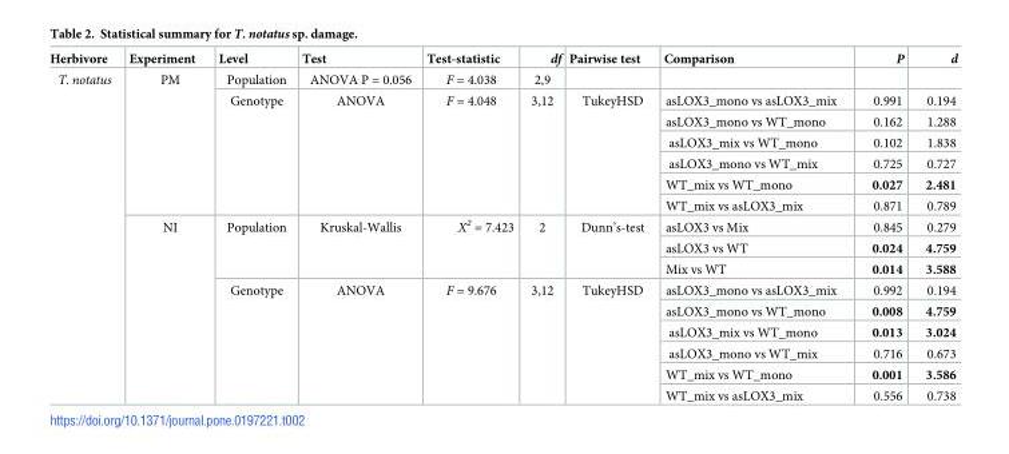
<table><thead><tr><td>Herbivore</td><td>Experiment</td><td>Level</td><td>Test</td><td>Test-statistic</td><td>df</td><td>Pairwise test</td><td>Comparison</td><td>P</td><td>d</td></tr></thead><tbody><tr><td rowspan="16">T. notatus</td><td rowspan="7">PM</td><td>Population</td><td>ANOVA P = 0.056</td><td>F = 4.038</td><td>2,9</td><td></td><td></td><td></td><td></td></tr><tr><td rowspan="6">Genotype</td><td rowspan="6">ANOVA</td><td rowspan="6">F = 4.048</td><td rowspan="6">3,12</td><td rowspan="6">TukeyHSD</td><td>asLOX3_mono vs asLOX3_mix</td><td>0.991</td><td>0.194</td></tr><tr><td>asLOX3_mono vs WT_mono</td><td>0.162</td><td>1.288</td></tr><tr><td>asLOX3_mix vs WT_mono</td><td>0.102</td><td>1.838</td></tr><tr><td>asLOX3_mono vs WT_mix</td><td>0.725</td><td>0.727</td></tr><tr><td>WT_mix vs WT_mono</td><td>0.027</td><td>2.481</td></tr><tr><td>WT_mix vs asLOX3_mix</td><td>0.871</td><td>0.789</td></tr><tr><td rowspan="9">NI</td><td rowspan="3">Population</td><td rowspan="3">Kruskal-Wallis</td><td rowspan="3">X<sup>2</sup> = 7.423</td><td rowspan="3">2</td><td rowspan="3">Dunn’s-test</td><td>asLOX3 vs Mix</td><td>0.845</td><td>0.279</td></tr><tr><td>asLOX3 vs WT</td><td>0.024</td><td>4.759</td></tr><tr><td>Mix vs WT</td><td>0.014</td><td>3.588</td></tr><tr><td rowspan="6">Genotype</td><td rowspan="6">ANOVA</td><td rowspan="6">F = 9.676</td><td rowspan="6">3,12</td><td rowspan="6">TukeyHSD</td><td>asLOX3_mono vs asLOX3_mix</td><td>0.992</td><td>0.194</td></tr><tr><td>asLOX3_mono vs WT_mono</td><td>0.008</td><td>4.759</td></tr><tr><td>asLOX3_mix vs WT_mono</td><td>0.013</td><td>3.024</td></tr><tr><td>asLOX3_mono vs WT_mix</td><td>0.716</td><td>0.673</td></tr><tr><td>WT_mix vs WT_mono</td><td>0.001</td><td>3.586</td></tr><tr><td>WT_mix vs asLOX3_mix</td><td>0.556</td><td>0.738</td></tr></tbody></table>